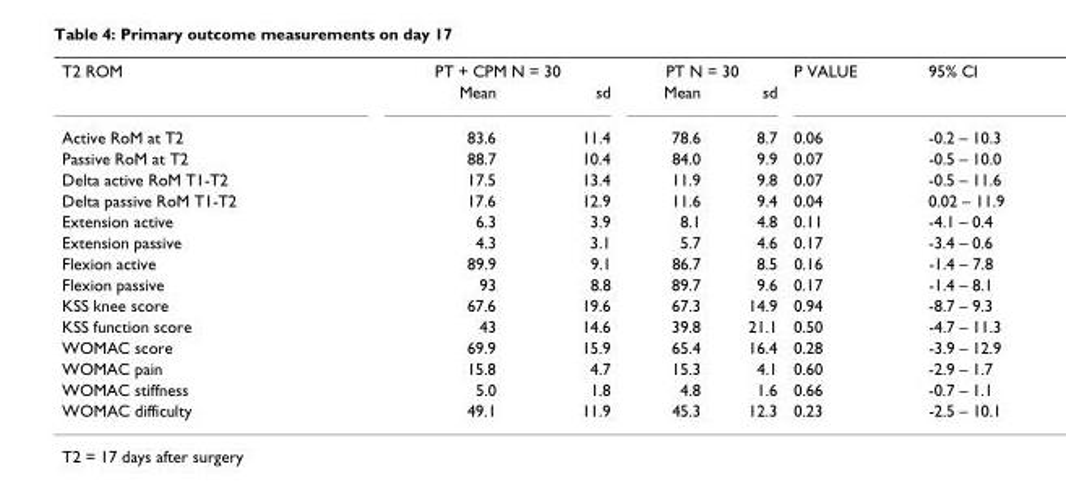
<table><tbody><tr><td rowspan="2">T2 ROM</td><td colspan="2">PT + CPM N = 30</td><td colspan="2">PT N = 30</td><td>P VALUE</td><td>95% CI</td></tr><tr><td>Mean</td><td>sd</td><td>Mean</td><td>sd</td><td></td><td></td></tr><tr><td>Active RoM at T2</td><td>83.6</td><td>11.4</td><td>78.6</td><td>8.7</td><td>0.06</td><td>-0.2 – 10.3</td></tr><tr><td>Passive RoM at T2</td><td>88.7</td><td>10.4</td><td>84.0</td><td>9.9</td><td>0.07</td><td>-0.5 – 10.0</td></tr><tr><td>Delta active RoM T1-T2</td><td>17.5</td><td>13.4</td><td>11.9</td><td>9.8</td><td>0.07</td><td>-0.5 – 11.6</td></tr><tr><td>Delta passive RoM T1-T2</td><td>17.6</td><td>12.9</td><td>11.6</td><td>9.4</td><td>0.04</td><td>0.02 – 11.9</td></tr><tr><td>Extension active</td><td>6.3</td><td>3.9</td><td>8.1</td><td>4.8</td><td>0.11</td><td>-4.1 – 0.4</td></tr><tr><td>Extension passive</td><td>4.3</td><td>3.1</td><td>5.7</td><td>4.6</td><td>0.17</td><td>-3.4 – 0.6</td></tr><tr><td>Flexion active</td><td>89.9</td><td>9.1</td><td>86.7</td><td>8.5</td><td>0.16</td><td>-1.4 – 7.8</td></tr><tr><td>Flexion passive</td><td>93</td><td>8.8</td><td>89.7</td><td>9.6</td><td>0.17</td><td>-1.4 – 8.1</td></tr><tr><td>KSS knee score</td><td>67.6</td><td>19.6</td><td>67.3</td><td>14.9</td><td>0.94</td><td>-8.7 – 9.3</td></tr><tr><td>KSS function score</td><td>43</td><td>14.6</td><td>39.8</td><td>21.1</td><td>0.50</td><td>-4.7 – 11.3</td></tr><tr><td>WOMAC score</td><td>69.9</td><td>15.9</td><td>65.4</td><td>16.4</td><td>0.28</td><td>-3.9 – 12.9</td></tr><tr><td>WOMAC pain</td><td>15.8</td><td>4.7</td><td>15.3</td><td>4.1</td><td>0.60</td><td>-2.9 – 1.7</td></tr><tr><td>WOMAC stiffness</td><td>5.0</td><td>1.8</td><td>4.8</td><td>1.6</td><td>0.66</td><td>-0.7 – 1.1</td></tr><tr><td>WOMAC difficulty</td><td>49.1</td><td>11.9</td><td>45.3</td><td>12.3</td><td>0.23</td><td>-2.5 – 10.1</td></tr></tbody></table>